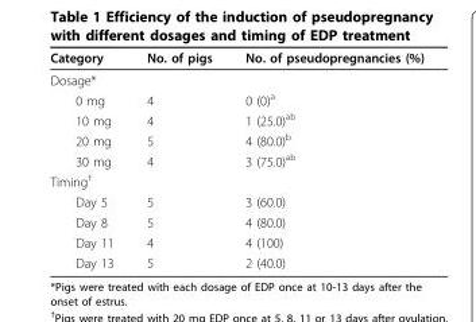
<table><thead><tr><td>Category</td><td>No. of pigs</td><td>No. of pseudopregnancies (%)</td></tr></thead><tbody><tr><td colspan="3">Dosage*</td></tr><tr><td>0 mg</td><td>4</td><td>0 (0)<sup>a</sup></td></tr><tr><td>10 mg</td><td>4</td><td>1 (25.0)<sup>ab</sup></td></tr><tr><td>20 mg</td><td>5</td><td>4 (80.0)<sup>b</sup></td></tr><tr><td>30 mg</td><td>4</td><td>3 (75.0)<sup>ab</sup></td></tr><tr><td colspan="3">Timing<sup>†</sup></td></tr><tr><td>Day 5</td><td>5</td><td>3 (60.0)</td></tr><tr><td>Day 8</td><td>5</td><td>4 (80.0)</td></tr><tr><td>Day 11</td><td>4</td><td>4 (100)</td></tr><tr><td>Day 13</td><td>5</td><td>2 (40.0)</td></tr></tbody></table>